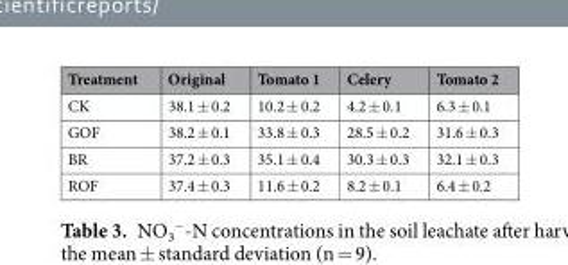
<table><thead><tr><td>Treatment</td><td>Original</td><td>Tomato 1</td><td>Celery</td><td>Tomato 2</td></tr></thead><tbody><tr><td>CK</td><td>38.1 ± 0.2</td><td>10.2 ± 0.2</td><td>4.2 ± 0.1</td><td>6.3 ± 0.1</td></tr><tr><td>GOF</td><td>38.2 ± 0.1</td><td>33.8 ± 0.3</td><td>28.5 ± 0.2</td><td>31.6 ± 0.3</td></tr><tr><td>BR</td><td>37.2 ± 0.3</td><td>35.1 ± 0.4</td><td>30.3 ± 0.3</td><td>32.1 ± 0.3</td></tr><tr><td>ROF</td><td>37.4 ± 0.3</td><td>11.6 ± 0.2</td><td>8.2 ± 0.1</td><td>6.4 ± 0.2</td></tr></tbody></table>